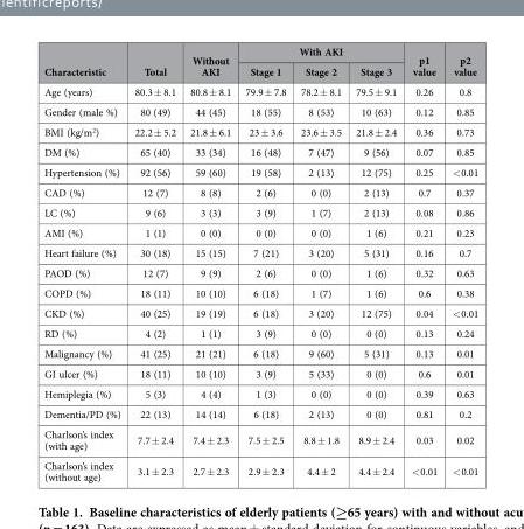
<table><thead><tr><td rowspan="2">Characteristic</td><td rowspan="2">Total</td><td rowspan="2">Without AKI</td><td colspan="3">With AKI</td><td rowspan="2">p1 value</td><td rowspan="2">p2 value</td></tr><tr><td>Stage 1</td><td>Stage 2</td><td>Stage 3</td></tr></thead><tbody><tr><td>Age (years)</td><td>80.3 ± 8.1</td><td>80.8 ± 8.1</td><td>79.9 ± 7.8</td><td>78.2 ± 8.1</td><td>79.5 ± 9.1</td><td>0.26</td><td>0.8</td></tr><tr><td>Gender (male %)</td><td>80 (49)</td><td>44 (45)</td><td>18 (55)</td><td>8 (53)</td><td>10 (63)</td><td>0.12</td><td>0.85</td></tr><tr><td>BMI (kg/m<sup>2</sup>)</td><td>22.2 ± 5.2</td><td>21.8 ± 6.1</td><td>23 ± 3.6</td><td>23.6 ± 3.5</td><td>21.8 ± 2.4</td><td>0.36</td><td>0.73</td></tr><tr><td>DM (%)</td><td>65 (40)</td><td>33 (34)</td><td>16 (48)</td><td>7 (47)</td><td>9 (56)</td><td>0.07</td><td>0.85</td></tr><tr><td>Hypertension (%)</td><td>92 (56)</td><td>59 (60)</td><td>19 (58)</td><td>2 (13)</td><td>12 (75)</td><td>0.25</td><td>&lt; 0.01</td></tr><tr><td>CAD (%)</td><td>12 (7)</td><td>8 (8)</td><td>2 (6)</td><td>0 (0)</td><td>2 (13)</td><td>0.7</td><td>0.37</td></tr><tr><td>LC (%)</td><td>9 (6)</td><td>3 (3)</td><td>3 (9)</td><td>1 (7)</td><td>2 (13)</td><td>0.08</td><td>0.86</td></tr><tr><td>AMI (%)</td><td>1 (1)</td><td>0 (0)</td><td>0 (0)</td><td>0 (0)</td><td>1 (6)</td><td>0.21</td><td>0.23</td></tr><tr><td>Heart failure (%)</td><td>30 (18)</td><td>15 (15)</td><td>7 (21)</td><td>3 (20)</td><td>5 (31)</td><td>0.16</td><td>0.7</td></tr><tr><td>PAOD (%)</td><td>12 (7)</td><td>9 (9)</td><td>2 (6)</td><td>0 (0)</td><td>1 (6)</td><td>0.32</td><td>0.63</td></tr><tr><td>COPD (%)</td><td>18 (11)</td><td>10 (10)</td><td>6 (18)</td><td>1 (7)</td><td>1 (6)</td><td>0.6</td><td>0.38</td></tr><tr><td>CKD (%)</td><td>40 (25)</td><td>19 (19)</td><td>6 (18)</td><td>3 (20)</td><td>12 (75)</td><td>0.04</td><td>&lt; 0.01</td></tr><tr><td>RD (%)</td><td>4 (2)</td><td>1 (1)</td><td>3 (9)</td><td>0 (0)</td><td>0 (0)</td><td>0.13</td><td>0.24</td></tr><tr><td>Malignancy (%)</td><td>41 (25)</td><td>21 (21)</td><td>6 (18)</td><td>9 (60)</td><td>5 (31)</td><td>0.13</td><td>0.01</td></tr><tr><td>GI ulcer (%)</td><td>18 (11)</td><td>10 (10)</td><td>3 (9)</td><td>5 (33)</td><td>0 (0)</td><td>0.6</td><td>0.01</td></tr><tr><td>Hemiplegia (%)</td><td>5 (3)</td><td>4 (4)</td><td>1 (3)</td><td>0 (0)</td><td>0 (0)</td><td>0.39</td><td>0.63</td></tr><tr><td>Dementia/PD (%)</td><td>22 (13)</td><td>14 (14)</td><td>6 (18)</td><td>2 (13)</td><td>0 (0)</td><td>0.81</td><td>0.2</td></tr><tr><td>Charlson’s index (with age)</td><td>7.7 ± 2.4</td><td>7.4 ± 2.3</td><td>7.5 ± 2.5</td><td>8.8 ± 1.8</td><td>8.9 ± 2.4</td><td>0.03</td><td>0.02</td></tr><tr><td>Charlson’s index (without age)</td><td>3.1 ± 2.3</td><td>2.7 ± 2.3</td><td>2.9 ± 2.3</td><td>4.4 ± 2</td><td>4.4 ± 2.4</td><td>&lt; 0.01</td><td>&lt; 0.01</td></tr></tbody></table>